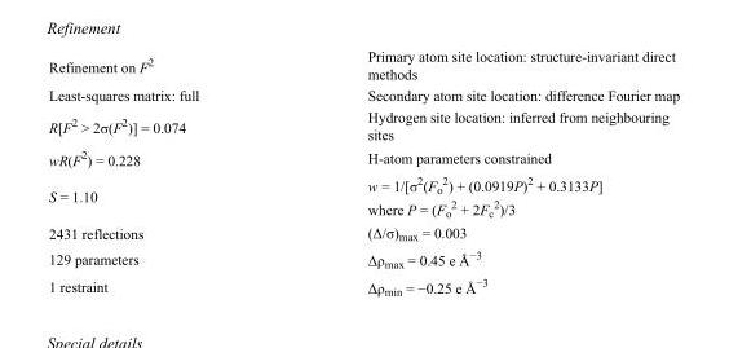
<table><tbody><tr><td>Refinement on F<sup>2</sup></td><td>Primary atom site location: structure-invariant direct methods</td></tr><tr><td>Least-squares matrix: full</td><td>Secondary atom site location: difference Fourier map</td></tr><tr><td>R[F<sup>2</sup> &gt; 2σ(F<sup>2</sup>)] = 0.074</td><td>Hydrogen site location: inferred from neighbouring sites</td></tr><tr><td>wR(F<sup>2</sup>) = 0.228</td><td>H-atom parameters constrained</td></tr><tr><td>S = 1.10</td><td>w = 1/[σ<sup>2</sup>(F<sub>o</sub> <sup>2</sup>) + (0.0919P)<sup>2</sup> + 0.3133P] where P = (F<sub>o</sub> <sup>2</sup> + 2F<sub>c</sub> <sup>2</sup>)/3</td></tr><tr><td>2431 reflections</td><td>(Δ/σ)<sub>max</sub> = 0.003</td></tr><tr><td>129 parameters</td><td>Δρ<sub>max</sub> = 0.45 e Å<sup>−3</sup></td></tr><tr><td>1 restraint</td><td>Δρ<sub>min</sub> = −0.25 e Å<sup>−3</sup></td></tr></tbody></table>